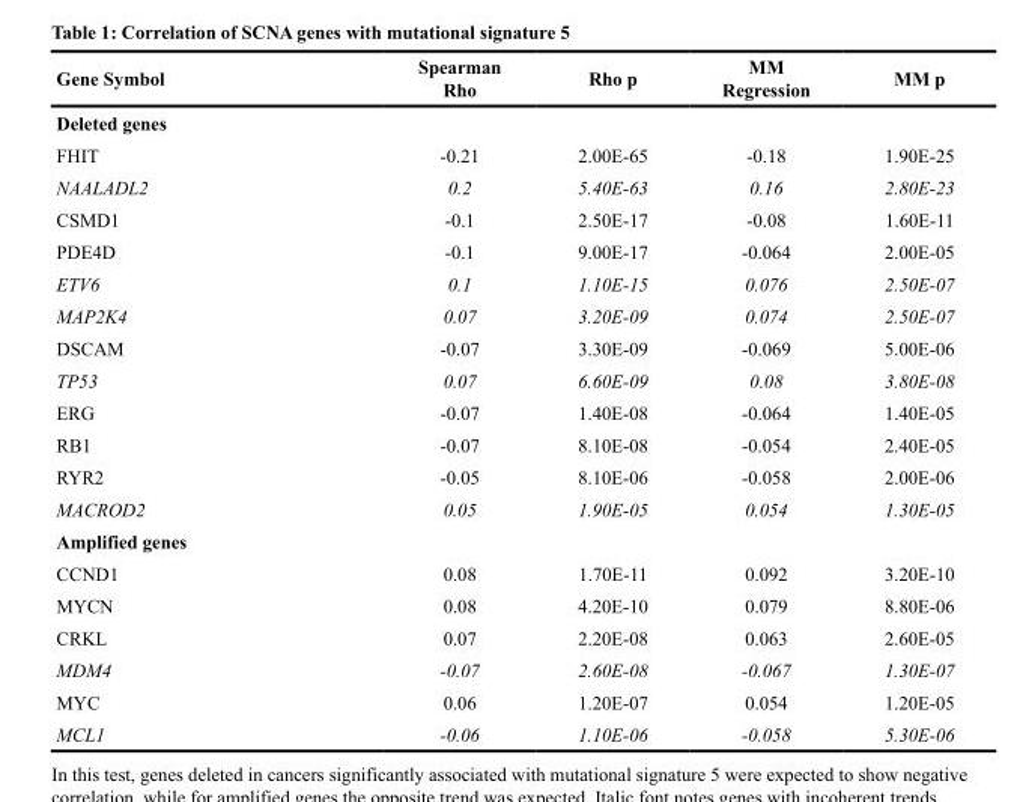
<table><thead><tr><td>Gene Symbol</td><td>Spearman Rho</td><td>Rho p</td><td>MM Regression</td><td>MM p</td></tr></thead><tbody><tr><td colspan="5">Deleted genes</td></tr><tr><td>FHIT</td><td>-0.21</td><td>2.00E-65</td><td>-0.18</td><td>1.90E-25</td></tr><tr><td>NAALADL2</td><td>0.2</td><td>5.40E-63</td><td>0.16</td><td>2.80E-23</td></tr><tr><td>CSMD1</td><td>-0.1</td><td>2.50E-17</td><td>-0.08</td><td>1.60E-11</td></tr><tr><td>PDE4D</td><td>-0.1</td><td>9.00E-17</td><td>-0.064</td><td>2.00E-05</td></tr><tr><td>ETV6</td><td>0.1</td><td>1.10E-15</td><td>0.076</td><td>2.50E-07</td></tr><tr><td>MAP2K4</td><td>0.07</td><td>3.20E-09</td><td>0.074</td><td>2.50E-07</td></tr><tr><td>DSCAM</td><td>-0.07</td><td>3.30E-09</td><td>-0.069</td><td>5.00E-06</td></tr><tr><td>TP53</td><td>0.07</td><td>6.60E-09</td><td>0.08</td><td>3.80E-08</td></tr><tr><td>ERG</td><td>-0.07</td><td>1.40E-08</td><td>-0.064</td><td>1.40E-05</td></tr><tr><td>RB1</td><td>-0.07</td><td>8.10E-08</td><td>-0.054</td><td>2.40E-05</td></tr><tr><td>RYR2</td><td>-0.05</td><td>8.10E-06</td><td>-0.058</td><td>2.00E-06</td></tr><tr><td>MACROD2</td><td>0.05</td><td>1.90E-05</td><td>0.054</td><td>1.30E-05</td></tr><tr><td colspan="5">Amplified genes</td></tr><tr><td>CCND1</td><td>0.08</td><td>1.70E-11</td><td>0.092</td><td>3.20E-10</td></tr><tr><td>MYCN</td><td>0.08</td><td>4.20E-10</td><td>0.079</td><td>8.80E-06</td></tr><tr><td>CRKL</td><td>0.07</td><td>2.20E-08</td><td>0.063</td><td>2.60E-05</td></tr><tr><td>MDM4</td><td>-0.07</td><td>2.60E-08</td><td>-0.067</td><td>1.30E-07</td></tr><tr><td>MYC</td><td>0.06</td><td>1.20E-07</td><td>0.054</td><td>1.20E-05</td></tr><tr><td>MCL1</td><td>-0.06</td><td>1.10E-06</td><td>-0.058</td><td>5.30E-06</td></tr></tbody></table>